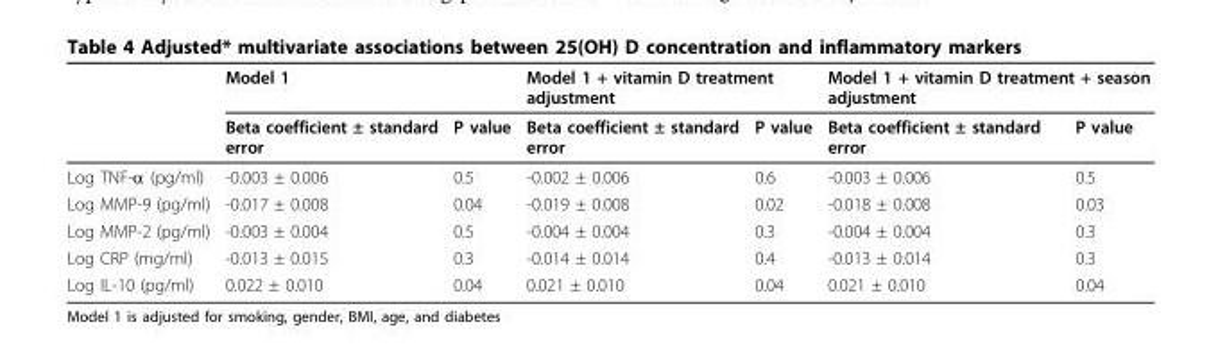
<table><thead><tr><td rowspan="2"></td><td rowspan="2">Model 1 Beta coefficient ± standard error</td><td rowspan="2">P value</td><td colspan="2">Model 1 + vitamin D treatment adjustment</td><td colspan="2">Model 1 + vitamin D treatment + season adjustment</td></tr><tr><td>Beta coefficient ± standard error</td><td>P value</td><td>Beta coefficient ± standard error</td><td>P value</td></tr></thead><tbody><tr><td>Log TNF-α (pg/ml)</td><td>-0.003 ± 0.006</td><td>0.5</td><td>-0.002 ± 0.006</td><td>0.6</td><td>-0.003 ± 0.006</td><td>0.5</td></tr><tr><td>Log MMP-9 (pg/ml)</td><td>-0.017 ± 0.008</td><td>0.04</td><td>-0.019 ± 0.008</td><td>0.02</td><td>-0.018 ± 0.008</td><td>0.03</td></tr><tr><td>Log MMP-2 (pg/ml)</td><td>-0.003 ± 0.004</td><td>0.5</td><td>-0.004 ± 0.004</td><td>0.3</td><td>-0.004 ± 0.004</td><td>0.3</td></tr><tr><td>Log CRP (mg/ml)</td><td>-0.013 ± 0.015</td><td>0.3</td><td>-0.014 ± 0.014</td><td>0.4</td><td>-0.013 ± 0.014</td><td>0.3</td></tr><tr><td>Log IL-10 (pg/ml)</td><td>0.022 ± 0.010</td><td>0.04</td><td>0.021 ± 0.010</td><td>0.04</td><td>0.021 ± 0.010</td><td>0.04</td></tr></tbody></table>